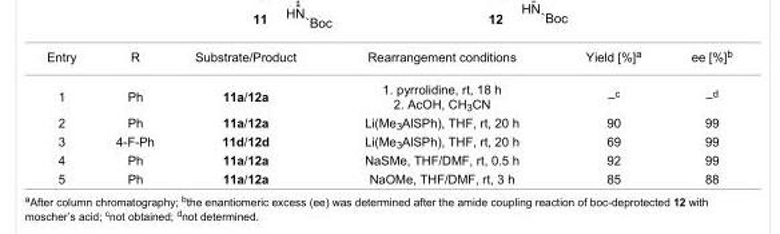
<table><tbody><tr><td>Entry</td><td>R</td><td>Substrate/Product</td><td>Rearrangement conditions</td><td>Yield [%]<sup>a</sup></td><td>ee [%]<sup>b</sup></td></tr><tr><td>1</td><td>Ph</td><td>11a/12a</td><td>1. pyrrolidine, rt, 18 h 2. AcOH, CH<sub>3</sub>CN</td><td>–<sup>c</sup></td><td>–<sup>d</sup></td></tr><tr><td>2</td><td>Ph</td><td>11a/12a</td><td>Li(Me<sub>3</sub>AlSPh), THF, rt, 20 h</td><td>90</td><td>99</td></tr><tr><td>3</td><td>4-F-Ph</td><td>11d/12d</td><td>Li(Me<sub>3</sub>AlSPh), THF, rt, 20 h</td><td>69</td><td>99</td></tr><tr><td>4</td><td>Ph</td><td>11a/12a</td><td>NaSMe, THF/DMF, rt, 0.5 h</td><td>92</td><td>99</td></tr><tr><td>5</td><td>Ph</td><td>11a/12a</td><td>NaOMe, THF/DMF, rt, 3 h</td><td>85</td><td>88</td></tr></tbody></table>